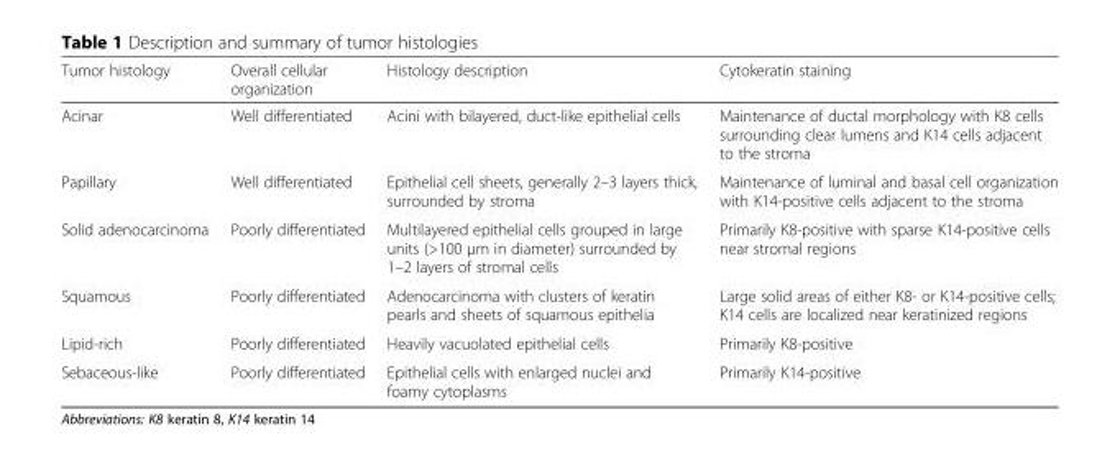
<table><thead><tr><td>Tumor histology</td><td>Overall cellular organization</td><td>Histology description</td><td>Cytokeratin staining</td></tr></thead><tbody><tr><td>Acinar</td><td>Well differentiated</td><td>Acini with bilayered, duct-like epithelial cells</td><td>Maintenance of ductal morphology with K8 cells surrounding clear lumens and K14 cells adjacent to the stroma</td></tr><tr><td>Papillary</td><td>Well differentiated</td><td>Epithelial cell sheets, generally 2–3 layers thick, surrounded by stroma</td><td>Maintenance of luminal and basal cell organization with K14-positive cells adjacent to the stroma</td></tr><tr><td>Solid adenocarcinoma</td><td>Poorly differentiated</td><td>Multilayered epithelial cells grouped in large units (&gt;100 μm in diameter) surrounded by 1–2 layers of stromal cells</td><td>Primarily K8-positive with sparse K14-positive cells near stromal regions</td></tr><tr><td>Squamous</td><td>Poorly differentiated</td><td>Adenocarcinoma with clusters of keratin pearls and sheets of squamous epithelia</td><td>Large solid areas of either K8- or K14-positive cells; K14 cells are localized near keratinized regions</td></tr><tr><td>Lipid-rich</td><td>Poorly differentiated</td><td>Heavily vacuolated epithelial cells</td><td>Primarily K8-positive</td></tr><tr><td>Sebaceous-like</td><td>Poorly differentiated</td><td>Epithelial cells with enlarged nuclei and foamy cytoplasms</td><td>Primarily K14-positive</td></tr></tbody></table>